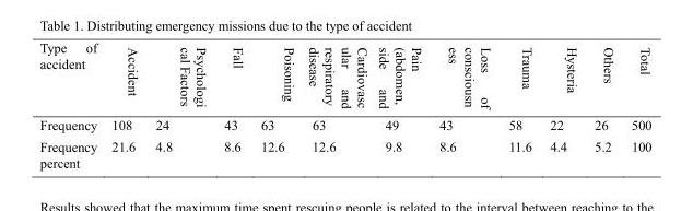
<table><thead><tr><td>Type of accident</td><td>Accident</td><td>Psychologi cal Factors</td><td>Fall</td><td>Poisoning</td><td>Cardiovasc ular and respiratory disease</td><td>Pain (abdomen, side and</td><td>Loss of consciousn ess</td><td>Trauma</td><td>Hysteria</td><td>Others</td><td>Total</td></tr></thead><tbody><tr><td>Frequency</td><td>108</td><td>24</td><td>43</td><td>63</td><td>63</td><td>49</td><td>43</td><td>58</td><td>22</td><td>26</td><td>500</td></tr><tr><td>Frequency percent</td><td>21.6</td><td>4.8</td><td>8.6</td><td>12.6</td><td>12.6</td><td>9.8</td><td>8.6</td><td>11.6</td><td>4.4</td><td>5.2</td><td>100</td></tr></tbody></table>